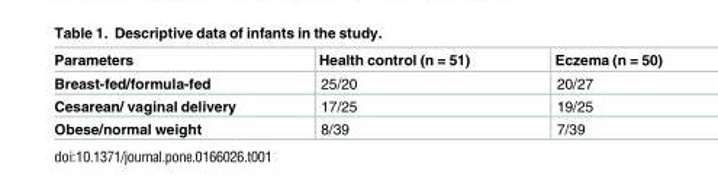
<table><thead><tr><td>Parameters</td><td>Health control (n = 51)</td><td>Eczema (n = 50)</td></tr></thead><tbody><tr><td>Breast-fed/formula-fed</td><td>25/20</td><td>20/27</td></tr><tr><td>Cesarean/ vaginal delivery</td><td>17/25</td><td>19/25</td></tr><tr><td>Obese/normal weight</td><td>8/39</td><td>7/39</td></tr></tbody></table>